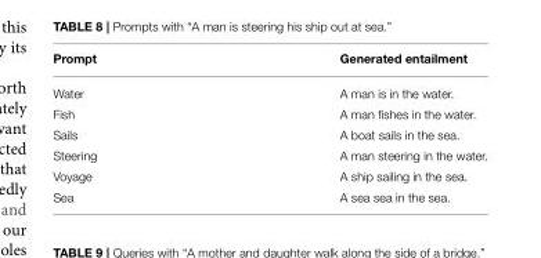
<table><thead><tr><td>Prompt</td><td>Generated entailment</td></tr></thead><tbody><tr><td>Water</td><td>A man is in the water.</td></tr><tr><td>Fish</td><td>A man fishes in the water.</td></tr><tr><td>Sails</td><td>A boat sails in the sea.</td></tr><tr><td>Steering</td><td>A man steering in the water.</td></tr><tr><td>Voyage</td><td>A ship sailing in the sea.</td></tr><tr><td>Sea</td><td>A sea sea in the sea.</td></tr></tbody></table>